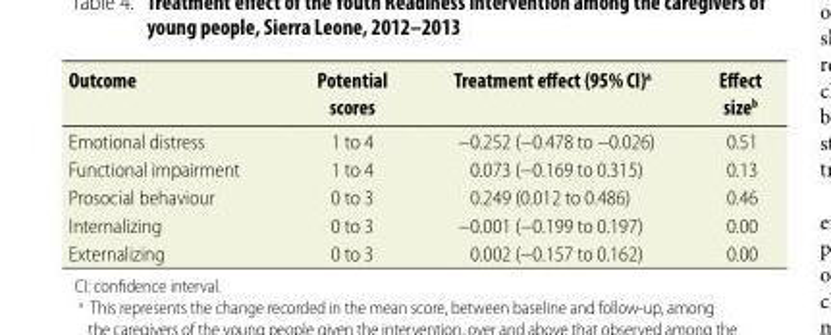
<table><thead><tr><td>Outcome</td><td>Potential scores</td><td>Treatment effect (95% CI)<sup>a</sup></td><td>Effect size<sup>b</sup></td></tr></thead><tbody><tr><td>Emotional distress</td><td>1 to 4</td><td>−0.252 (−0.478 to −0.026)</td><td>0.51</td></tr><tr><td>Functional impairment</td><td>1 to 4</td><td>0.073 (−0.169 to 0.315)</td><td>0.13</td></tr><tr><td>Prosocial behaviour</td><td>0 to 3</td><td>0.249 (0.012 to 0.486)</td><td>0.46</td></tr><tr><td>Internalizing</td><td>0 to 3</td><td>−0.001 (−0.199 to 0.197)</td><td>0.00</td></tr><tr><td>Externalizing</td><td>0 to 3</td><td>0.002 (−0.157 to 0.162)</td><td>0.00</td></tr></tbody></table>